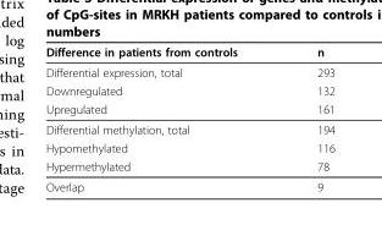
<table><thead><tr><td>Difference in patients from controls</td><td>n</td></tr></thead><tbody><tr><td>Differential expression, total</td><td>293</td></tr><tr><td>Downregulated</td><td>132</td></tr><tr><td>Upregulated</td><td>161</td></tr><tr><td>Differential methylation, total</td><td>194</td></tr><tr><td>Hypomethylated</td><td>116</td></tr><tr><td>Hypermethylated</td><td>78</td></tr><tr><td>Overlap</td><td>9</td></tr></tbody></table>